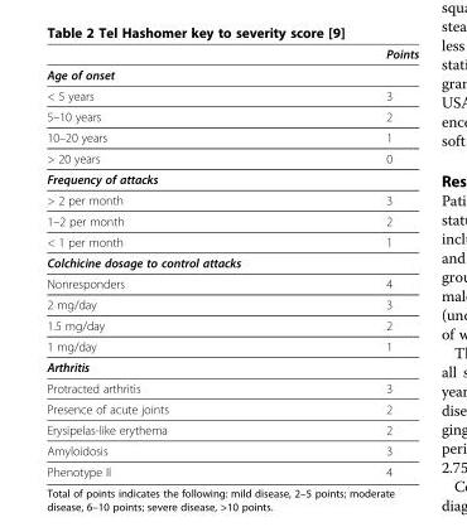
<table><thead><tr><td></td><td>Points</td></tr></thead><tbody><tr><td colspan="2">Age of onset</td></tr><tr><td>&lt; 5 years</td><td>3</td></tr><tr><td>5–10 years</td><td>2</td></tr><tr><td>10–20 years</td><td>1</td></tr><tr><td>&gt; 20 years</td><td>0</td></tr><tr><td colspan="2">Frequency of attacks</td></tr><tr><td>&gt; 2 per month</td><td>3</td></tr><tr><td>1–2 per month</td><td>2</td></tr><tr><td>&lt; 1 per month</td><td>1</td></tr><tr><td colspan="2">Colchicine dosage to control attacks</td></tr><tr><td>Nonresponders</td><td>4</td></tr><tr><td>2 mg/day</td><td>3</td></tr><tr><td>1.5 mg/day</td><td>2</td></tr><tr><td>1 mg/day</td><td>1</td></tr><tr><td colspan="2">Arthritis</td></tr><tr><td>Protracted arthritis</td><td>3</td></tr><tr><td>Presence of acute joints</td><td>2</td></tr><tr><td>Erysipelas-like erythema</td><td>2</td></tr><tr><td>Amyloidosis</td><td>3</td></tr><tr><td>Phenotype II</td><td>4</td></tr></tbody></table>